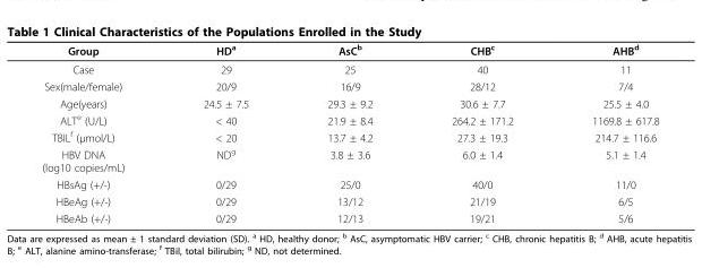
<table><thead><tr><td>Group</td><td>HD<sup>a</sup></td><td>AsC<sup>b</sup></td><td>CHB<sup>c</sup></td><td>AHB<sup>d</sup></td></tr></thead><tbody><tr><td>Case</td><td>29</td><td>25</td><td>40</td><td>11</td></tr><tr><td>Sex(male/female)</td><td>20/9</td><td>16/9</td><td>28/12</td><td>7/4</td></tr><tr><td>Age(years)</td><td>24.5 ± 7.5</td><td>29.3 ± 9.2</td><td>30.6 ± 7.7</td><td>25.5 ± 4.0</td></tr><tr><td>ALT<sup>e</sup> (U/L)</td><td>&lt; 40</td><td>21.9 ± 8.4</td><td>264.2 ± 171.2</td><td>1169.8 ± 617.8</td></tr><tr><td>TBIL<sup>f</sup> (μmol/L)</td><td>&lt; 20</td><td>13.7 ± 4.2</td><td>27.3 ± 19.3</td><td>214.7 ± 116.6</td></tr><tr><td>HBV DNA (log10 copies/mL)</td><td>ND<sup>g</sup></td><td>3.8 ± 3.6</td><td>6.0 ± 1.4</td><td>5.1 ± 1.4</td></tr><tr><td>HBsAg (+/-)</td><td>0/29</td><td>25/0</td><td>40/0</td><td>11/0</td></tr><tr><td>HBeAg (+/-)</td><td>0/29</td><td>13/12</td><td>21/19</td><td>6/5</td></tr><tr><td>HBeAb (+/-)</td><td>0/29</td><td>12/13</td><td>19/21</td><td>5/6</td></tr></tbody></table>